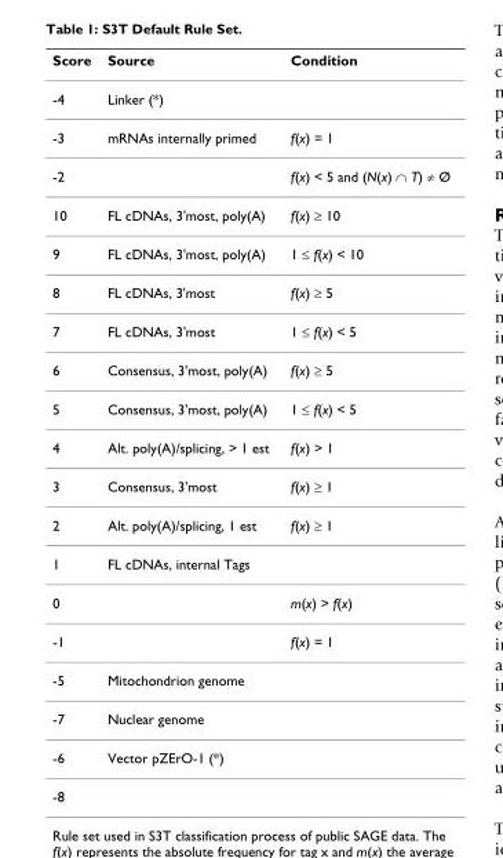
<table><thead><tr><td>Score</td><td>Source</td><td>Condition</td></tr></thead><tbody><tr><td>-4</td><td>Linker (*)</td><td></td></tr><tr><td>-3</td><td>mRNAs internally primed</td><td>f(x) = 1</td></tr><tr><td>-2</td><td></td><td>f(x) &lt; 5 and (N(x) ∩ T) ≠ Ø</td></tr><tr><td>10</td><td>FL cDNAs, 3&#x27;most, poly(A)</td><td>f(x) ≥ 10</td></tr><tr><td>9</td><td>FL cDNAs, 3&#x27;most, poly(A)</td><td>1 ≤ f(x) &lt; 10</td></tr><tr><td>8</td><td>FL cDNAs, 3&#x27;most</td><td>f(x) ≥ 5</td></tr><tr><td>7</td><td>FL cDNAs, 3&#x27;most</td><td>1 ≤ f(x) &lt; 5</td></tr><tr><td>6</td><td>Consensus, 3&#x27;most, poly(A)</td><td>f(x) ≥ 5</td></tr><tr><td>5</td><td>Consensus, 3&#x27;most, poly(A)</td><td>1 ≤ f(x) &lt; 5</td></tr><tr><td>4</td><td>Alt. poly(A)/splicing, &gt; 1 est</td><td>f(x) &gt; 1</td></tr><tr><td>3</td><td>Consensus, 3&#x27;most</td><td>f(x) ≥ 1</td></tr><tr><td>2</td><td>Alt. poly(A)/splicing, 1 est</td><td>f(x) ≥ 1</td></tr><tr><td>1</td><td>FL cDNAs, internal Tags</td><td></td></tr><tr><td>0</td><td></td><td>m(x) &gt; f(x)</td></tr><tr><td>-1</td><td></td><td>f(x) = 1</td></tr><tr><td>-5</td><td>Mitochondrion genome</td><td></td></tr><tr><td>-7</td><td>Nuclear genome</td><td></td></tr><tr><td>-6</td><td>Vector pZErO-1 (*)</td><td></td></tr><tr><td>-8</td><td></td><td></td></tr></tbody></table>